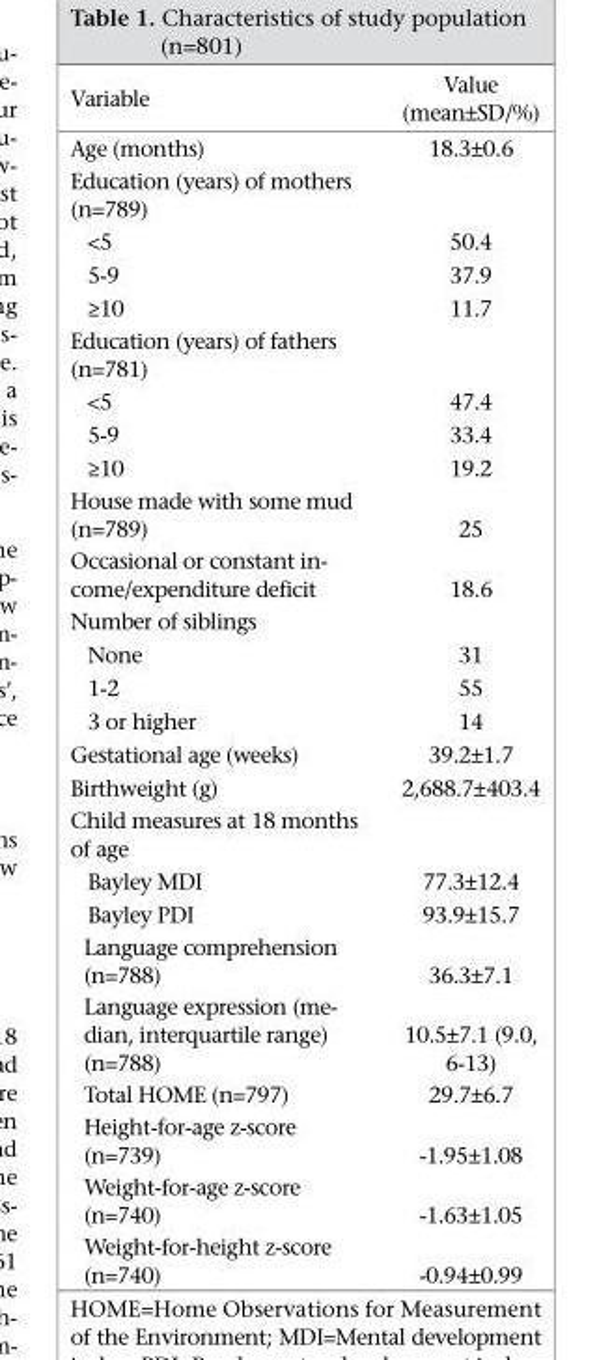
<table><thead><tr><td>Variable</td><td>Value (mean±SD/%)</td></tr></thead><tbody><tr><td>Age (months)</td><td>18.3±0.6</td></tr><tr><td colspan="2">Education (years) of mothers (n=789)</td></tr><tr><td>&lt;5</td><td>50.4</td></tr><tr><td>5-9</td><td>37.9</td></tr><tr><td>≥10</td><td>11.7</td></tr><tr><td colspan="2">Education (years) of fathers (n=781)</td></tr><tr><td>&lt;5</td><td>47.4</td></tr><tr><td>5-9</td><td>33.4</td></tr><tr><td>≥10</td><td>19.2</td></tr><tr><td>House made with some mud (n=789)</td><td>25</td></tr><tr><td>Occasional or constant in- come/expenditure deficit</td><td>18.6</td></tr><tr><td colspan="2">Number of siblings</td></tr><tr><td>None</td><td>31</td></tr><tr><td>1-2</td><td>55</td></tr><tr><td>3 or higher</td><td>14</td></tr><tr><td>Gestational age (weeks)</td><td>39.2±1.7</td></tr><tr><td>Birthweight (g)</td><td>2,688.7±403.4</td></tr><tr><td colspan="2">Child measures at 18 months of age</td></tr><tr><td>Bayley MDI</td><td>77.3±12.4</td></tr><tr><td>Bayley PDI</td><td>93.9±15.7</td></tr><tr><td>Language comprehension (n=788)</td><td>36.3±7.1</td></tr><tr><td>Language expression (me- dian, interquartile range) (n=788)</td><td>10.5±7.1 (9.0, 6-13)</td></tr><tr><td>Total HOME (n=797)</td><td>29.7±6.7</td></tr><tr><td>Height-for-age z-score (n=739)</td><td>-1.95±1.08</td></tr><tr><td>Weight-for-age z-score (n=740)</td><td>-1.63±1.05</td></tr><tr><td>Weight-for-height z-score (n=740)</td><td>-0.94±0.99</td></tr></tbody></table>